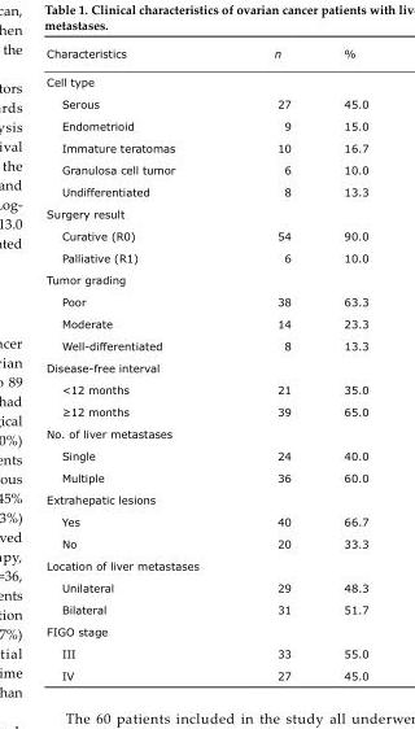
<table><thead><tr><td>Characteristics</td><td>n</td><td>%</td></tr></thead><tbody><tr><td colspan="3">Cell type</td></tr><tr><td>Serous</td><td>27</td><td>45.0</td></tr><tr><td>Endometrioid</td><td>9</td><td>15.0</td></tr><tr><td>Immature teratomas</td><td>10</td><td>16.7</td></tr><tr><td>Granulosa cell tumor</td><td>6</td><td>10.0</td></tr><tr><td>Undifferentiated</td><td>8</td><td>13.3</td></tr><tr><td colspan="3">Surgery result</td></tr><tr><td>Curative (R0)</td><td>54</td><td>90.0</td></tr><tr><td>Palliative (R1)</td><td>6</td><td>10.0</td></tr><tr><td colspan="3">Tumor grading</td></tr><tr><td>Poor</td><td>38</td><td>63.3</td></tr><tr><td>Moderate</td><td>14</td><td>23.3</td></tr><tr><td>Well-differentiated</td><td>8</td><td>13.3</td></tr><tr><td colspan="3">Disease-free interval</td></tr><tr><td>&lt;12 months</td><td>21</td><td>35.0</td></tr><tr><td>≥12 months</td><td>39</td><td>65.0</td></tr><tr><td colspan="3">No. of liver metastases</td></tr><tr><td>Single</td><td>24</td><td>40.0</td></tr><tr><td>Multiple</td><td>36</td><td>60.0</td></tr><tr><td colspan="3">Extrahepatic lesions</td></tr><tr><td>Yes</td><td>40</td><td>66.7</td></tr><tr><td>No</td><td>20</td><td>33.3</td></tr><tr><td colspan="3">Location of liver metastases</td></tr><tr><td>Unilateral</td><td>29</td><td>48.3</td></tr><tr><td>Bilateral</td><td>31</td><td>51.7</td></tr><tr><td colspan="3">FIGO stage</td></tr><tr><td>III</td><td>33</td><td>55.0</td></tr><tr><td>IV</td><td>27</td><td>45.0</td></tr></tbody></table>